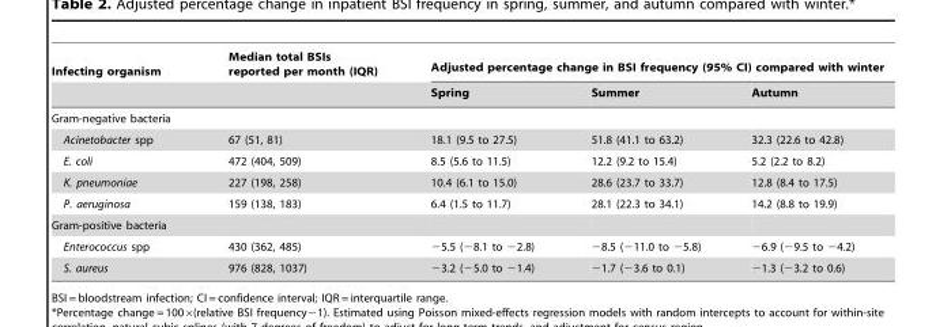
<table><thead><tr><td rowspan="2">Infecting organism</td><td rowspan="2">Median total BSIs reported per month (IQR)</td><td colspan="3">Adjusted percentage change in BSI frequency (95% CI) compared with winter</td></tr><tr><td>Spring</td><td>Summer</td><td>Autumn</td></tr></thead><tbody><tr><td colspan="5">Gram-negative bacteria</td></tr><tr><td>Acinetobacter spp</td><td>67 (51, 81)</td><td>18.1 (9.5 to 27.5)</td><td>51.8 (41.1 to 63.2)</td><td>32.3 (22.6 to 42.8)</td></tr><tr><td>E. coli</td><td>472 (404, 509)</td><td>8.5 (5.6 to 11.5)</td><td>12.2 (9.2 to 15.4)</td><td>5.2 (2.2 to 8.2)</td></tr><tr><td>K. pneumoniae</td><td>227 (198, 258)</td><td>10.4 (6.1 to 15.0)</td><td>28.6 (23.7 to 33.7)</td><td>12.8 (8.4 to 17.5)</td></tr><tr><td>P. aeruginosa</td><td>159 (138, 183)</td><td>6.4 (1.5 to 11.7)</td><td>28.1 (22.3 to 34.1)</td><td>14.2 (8.8 to 19.9)</td></tr><tr><td colspan="5">Gram-positive bacteria</td></tr><tr><td>Enterococcus spp</td><td>430 (362, 485)</td><td>−5.5 (−8.1 to −2.8)</td><td>−8.5 (−11.0 to −5.8)</td><td>−6.9 (−9.5 to −4.2)</td></tr><tr><td>S. aureus</td><td>976 (828, 1037)</td><td>−3.2 (−5.0 to −1.4)</td><td>−1.7 (−3.6 to 0.1)</td><td>−1.3 (−3.2 to 0.6)</td></tr></tbody></table>